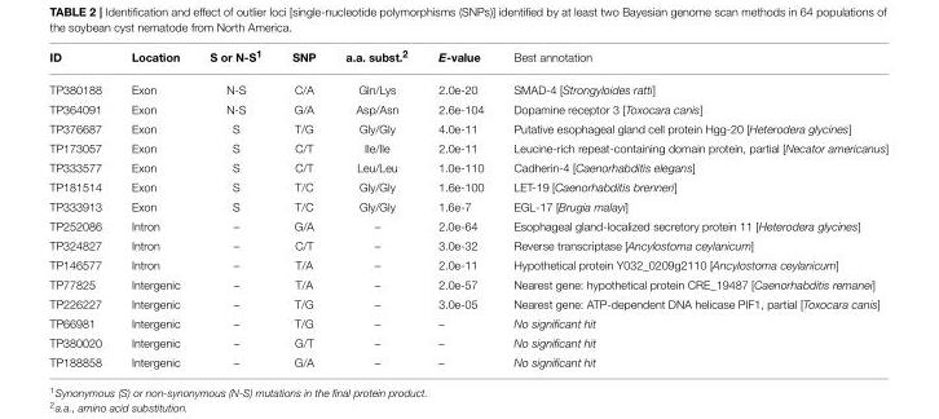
<table><thead><tr><td>ID</td><td>Location</td><td>S or N-S<sup>1</sup></td><td>SNP</td><td>a.a. subst.<sup>2</sup></td><td>E-value</td><td>Best annotation</td></tr></thead><tbody><tr><td>TP380188</td><td>Exon</td><td>N-S</td><td>C/A</td><td>Gln/Lys</td><td>2.0e-20</td><td>SMAD-4 [Strongyloides ratti]</td></tr><tr><td>TP364091</td><td>Exon</td><td>N-S</td><td>G/A</td><td>Asp/Asn</td><td>2.6e-104</td><td>Dopamine receptor 3 [Toxocara canis]</td></tr><tr><td>TP376687</td><td>Exon</td><td>S</td><td>T/G</td><td>Gly/Gly</td><td>4.0e-11</td><td>Putative esophageal gland cell protein Hgg-20 [Heterodera glycines]</td></tr><tr><td>TP173057</td><td>Exon</td><td>S</td><td>C/T</td><td>Ile/Ile</td><td>2.0e-11</td><td>Leucine-rich repeat-containing domain protein, partial [Necator americanus]</td></tr><tr><td>TP333577</td><td>Exon</td><td>S</td><td>C/T</td><td>Leu/Leu</td><td>1.0e-110</td><td>Cadherin-4 [Caenorhabditis elegans]</td></tr><tr><td>TP181514</td><td>Exon</td><td>S</td><td>T/C</td><td>Gly/Gly</td><td>1.6e-100</td><td>LET-19 [Caenorhabditis brenneri]</td></tr><tr><td>TP333913</td><td>Exon</td><td>S</td><td>T/C</td><td>Gly/Gly</td><td>1.6e-7</td><td>EGL-17 [Brugia malayi]</td></tr><tr><td>TP252086</td><td>Intron</td><td>–</td><td>G/A</td><td>–</td><td>2.0e-64</td><td>Esophageal gland-localized secretory protein 11 [Heterodera glycines]</td></tr><tr><td>TP324827</td><td>Intron</td><td>–</td><td>C/T</td><td>–</td><td>3.0e-32</td><td>Reverse transcriptase [Ancylostoma ceylanicum]</td></tr><tr><td>TP146577</td><td>Intron</td><td>–</td><td>T/A</td><td>–</td><td>2.0e-11</td><td>Hypothetical protein Y032_0209g2110 [Ancylostoma ceylanicum]</td></tr><tr><td>TP77825</td><td>Intergenic</td><td>–</td><td>T/A</td><td>–</td><td>2.0e-57</td><td>Nearest gene: hypothetical protein CRE_19487 [Caenorhabditis remanei]</td></tr><tr><td>TP226227</td><td>Intergenic</td><td>–</td><td>T/G</td><td>–</td><td>3.0e-05</td><td>Nearest gene: ATP-dependent DNA helicase PIF1, partial [Toxocara canis]</td></tr><tr><td>TP66981</td><td>Intergenic</td><td>–</td><td>T/G</td><td>–</td><td>–</td><td>No significant hit</td></tr><tr><td>TP380020</td><td>Intergenic</td><td>–</td><td>G/T</td><td>–</td><td>–</td><td>No significant hit</td></tr><tr><td>TP188858</td><td>Intergenic</td><td>–</td><td>G/A</td><td>–</td><td>–</td><td>No significant hit</td></tr></tbody></table>